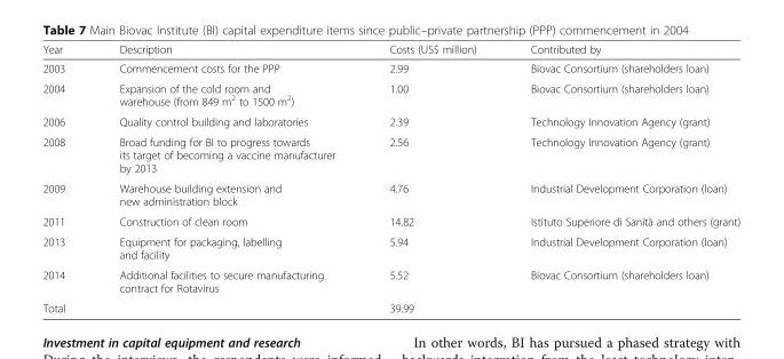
<table><thead><tr><td>Year</td><td>Description</td><td>Costs (US$ million)</td><td>Contributed by</td></tr></thead><tbody><tr><td>2003</td><td>Commencement costs for the PPP</td><td>2.99</td><td>Biovac Consortium (shareholders loan)</td></tr><tr><td>2004</td><td>Expansion of the cold room and warehouse (from 849 m<sup>2</sup> to 1500 m<sup>2</sup>)</td><td>1.00</td><td>Biovac Consortium (shareholders loan)</td></tr><tr><td>2006</td><td>Quality control building and laboratories</td><td>2.39</td><td>Technology Innovation Agency (grant)</td></tr><tr><td>2008</td><td>Broad funding for BI to progress towards its target of becoming a vaccine manufacturer by 2013</td><td>2.56</td><td>Technology Innovation Agency (grant)</td></tr><tr><td>2009</td><td>Warehouse building extension and new administration block</td><td>4.76</td><td>Industrial Development Corporation (loan)</td></tr><tr><td>2011</td><td>Construction of clean room</td><td>14.82</td><td>Istituto Superiore di Sanità and others (grant)</td></tr><tr><td>2013</td><td>Equipment for packaging, labelling and facility</td><td>5.94</td><td>Industrial Development Corporation (loan)</td></tr><tr><td>2014</td><td>Additional facilities to secure manufacturing contract for Rotavirus</td><td>5.52</td><td>Biovac Consortium (shareholders loan)</td></tr><tr><td>Total</td><td></td><td>39.99</td><td></td></tr></tbody></table>